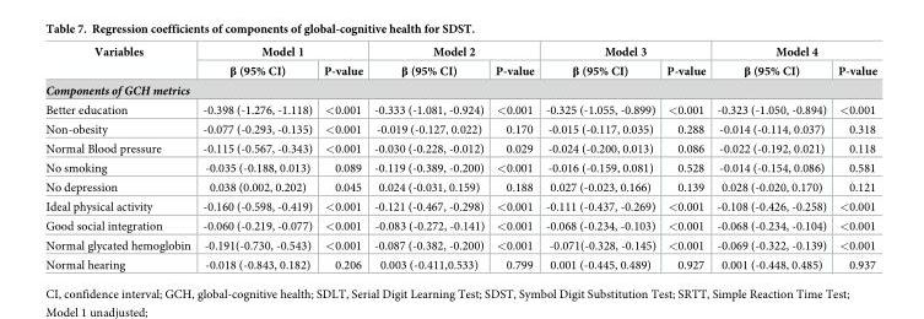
<table><thead><tr><td rowspan="2">Variables</td><td colspan="2">Model 1</td><td colspan="2">Model 2</td><td colspan="2">Model 3</td><td colspan="2">Model 4</td></tr><tr><td>β (95% CI)</td><td>P-value</td><td>β (95% CI)</td><td>P-value</td><td>β (95% CI)</td><td>P-value</td><td>β (95% CI)</td><td>P-value</td></tr><tr><td colspan="9">Components of GCH metrics</td></tr></thead><tbody><tr><td>Better education</td><td>-0.398 (-1.276, -1.118)</td><td>&lt;0.001</td><td>-0.333 (-1.081, -0.924)</td><td>&lt;0.001</td><td>-0.325 (-1.055, -0.899)</td><td>&lt;0.001</td><td>-0.323 (-1.050, -0.894)</td><td>&lt;0.001</td></tr><tr><td>Non-obesity</td><td>-0.077 (-0.293, -0.135)</td><td>&lt;0.001</td><td>-0.019 (-0.127, 0.022)</td><td>0.170</td><td>-0.015 (-0.117, 0.035)</td><td>0.288</td><td>-0.014 (-0.114, 0.037)</td><td>0.318</td></tr><tr><td>Normal Blood pressure</td><td>-0.115 (-0.567, -0.343)</td><td>&lt;0.001</td><td>-0.030 (-0.228, -0.012)</td><td>0.029</td><td>-0.024 (-0.200, 0.013)</td><td>0.086</td><td>-0.022 (-0.192, 0.021)</td><td>0.118</td></tr><tr><td>No smoking</td><td>-0.035 (-0.188, 0.013)</td><td>0.089</td><td>-0.119 (-0.389, -0.200)</td><td>&lt;0.001</td><td>-0.016 (-0.159, 0.081)</td><td>0.528</td><td>-0.014 (-0.154, 0.086)</td><td>0.581</td></tr><tr><td>No depression</td><td>0.038 (0.002, 0.202)</td><td>0.045</td><td>0.024 (-0.031, 0.159)</td><td>0.188</td><td>0.027 (-0.023, 0.166)</td><td>0.139</td><td>0.028 (-0.020, 0.170)</td><td>0.121</td></tr><tr><td>Ideal physical activity</td><td>-0.160 (-0.598, -0.419)</td><td>&lt;0.001</td><td>-0.121 (-0.467, -0.298)</td><td>&lt;0.001</td><td>-0.111 (-0.437, -0.269)</td><td>&lt;0.001</td><td>-0.108 (-0.426, -0.258)</td><td>&lt;0.001</td></tr><tr><td>Good social integration</td><td>-0.060 (-0.219, -0.077)</td><td>&lt;0.001</td><td>-0.083 (-0.272, -0.141)</td><td>&lt;0.001</td><td>-0.068 (-0.234, -0.103)</td><td>&lt;0.001</td><td>-0.068 (-0.234, -0.104)</td><td>&lt;0.001</td></tr><tr><td>Normal glycated hemoglobin</td><td>-0.191(-0.730, -0.543)</td><td>&lt;0.001</td><td>-0.087 (-0.382, -0.200)</td><td>&lt;0.001</td><td>-0.071(-0.328, -0.145)</td><td>&lt;0.001</td><td>-0.069 (-0.322, -0.139)</td><td>&lt;0.001</td></tr><tr><td>Normal hearing</td><td>-0.018 (-0.843, 0.182)</td><td>0.206</td><td>0.003 (-0.411,0.533)</td><td>0.799</td><td>0.001 (-0.445, 0.489)</td><td>0.927</td><td>0.001 (-0.448, 0.485)</td><td>0.937</td></tr></tbody></table>